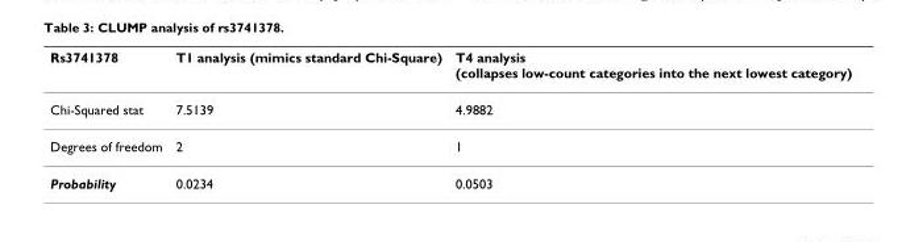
<table><thead><tr><td>Rs3741378</td><td>T1 analysis (mimics standard Chi-Square)</td><td>T4 analysis (collapses low-count categories into the next lowest category)</td></tr></thead><tbody><tr><td>Chi-Squared stat</td><td>7.5139</td><td>4.9882</td></tr><tr><td>Degrees of freedom</td><td>2</td><td>1</td></tr><tr><td>Probability</td><td>0.0234</td><td>0.0503</td></tr></tbody></table>